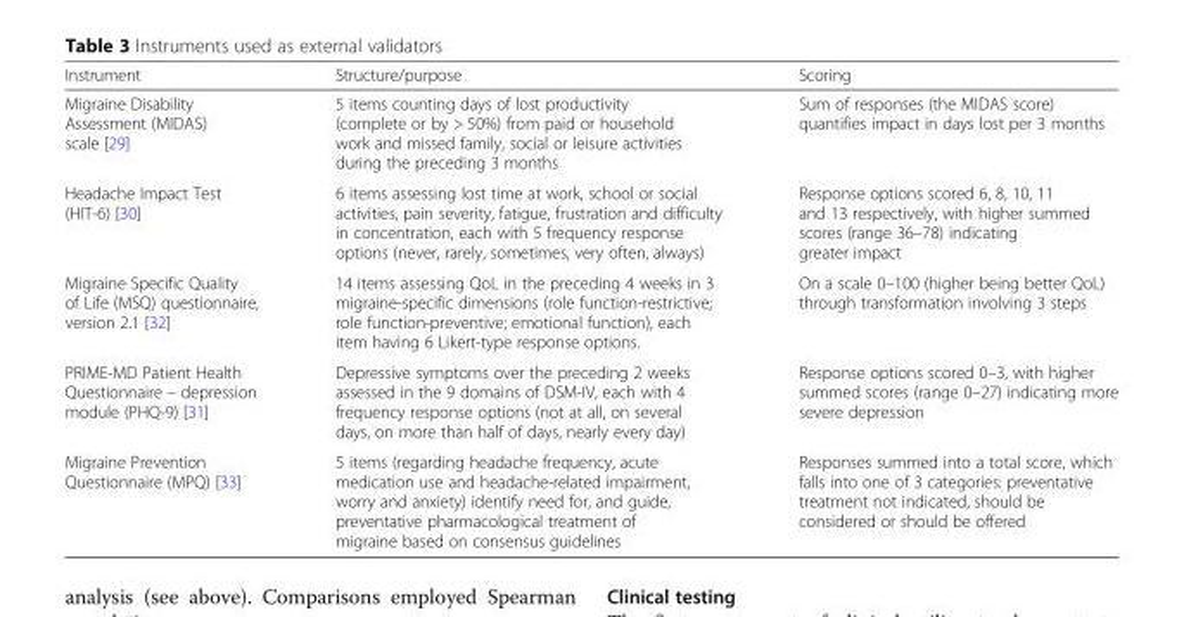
<table><thead><tr><td>Instrument</td><td>Structure/purpose</td><td>Scoring</td></tr></thead><tbody><tr><td>Migraine Disability Assessment (MIDAS) scale [29]</td><td>5 items counting days of lost productivity (complete or by &gt; 50%) from paid or household work and missed family, social or leisure activities during the preceding 3 months</td><td>Sum of responses (the MIDAS score) quantifies impact in days lost per 3 months</td></tr><tr><td>Headache Impact Test (HIT-6) [30]</td><td>6 items assessing lost time at work, school or social activities, pain severity, fatigue, frustration and difficulty in concentration, each with 5 frequency response options (never, rarely, sometimes, very often, always)</td><td>Response options scored 6, 8, 10, 11 and 13 respectively, with higher summed scores (range 36–78) indicating greater impact</td></tr><tr><td>Migraine Specific Quality of Life (MSQ) questionnaire, version 2.1 [32]</td><td>14 items assessing QoL in the preceding 4 weeks in 3 migraine-specific dimensions (role function-restrictive; role function-preventive; emotional function), each item having 6 Likert-type response options.</td><td>On a scale 0–100 (higher being better QoL) through transformation involving 3 steps</td></tr><tr><td>PRIME-MD Patient Health Questionnaire – depression module (PHQ-9) [31]</td><td>Depressive symptoms over the preceding 2 weeks assessed in the 9 domains of DSM-IV, each with 4 frequency response options (not at all, on several days, on more than half of days, nearly every day)</td><td>Response options scored 0–3, with higher summed scores (range 0–27) indicating more severe depression</td></tr><tr><td>Migraine Prevention Questionnaire (MPQ) [33]</td><td>5 items (regarding headache frequency, acute medication use and headache-related impairment, worry and anxiety) identify need for, and guide, preventative pharmacological treatment of migraine based on consensus guidelines</td><td>Responses summed into a total score, which falls into one of 3 categories: preventative treatment not indicated, should be considered or should be offered</td></tr></tbody></table>